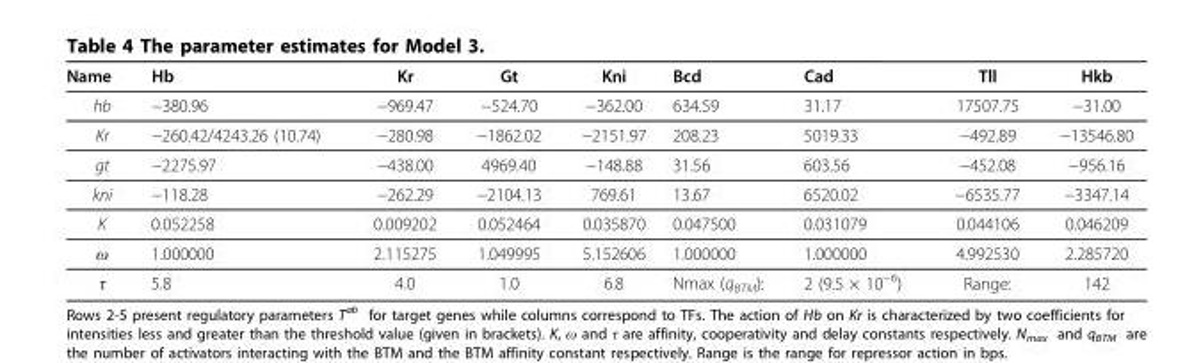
<table><thead><tr><td>Name</td><td>Hb</td><td>Kr</td><td>Gt</td><td>Kni</td><td>Bcd</td><td>Cad</td><td>Tll</td><td>Hkb</td></tr></thead><tbody><tr><td>hb</td><td>−380.96</td><td>−969.47</td><td>−524.70</td><td>−362.00</td><td>634.59</td><td>31.17</td><td>17507.75</td><td>−31.00</td></tr><tr><td>Kr</td><td>−260.42/4243.26 (10.74)</td><td>−280.98</td><td>−1862.02</td><td>−2151.97</td><td>208.23</td><td>5019.33</td><td>−492.89</td><td>−13546.80</td></tr><tr><td>gt</td><td>−2275.97</td><td>−438.00</td><td>4969.40</td><td>−148.88</td><td>31.56</td><td>603.56</td><td>−452.08</td><td>−956.16</td></tr><tr><td>kni</td><td>−118.28</td><td>−262.29</td><td>−2104.13</td><td>769.61</td><td>13.67</td><td>6520.02</td><td>−6535.77</td><td>−3347.14</td></tr><tr><td>K</td><td>0.052258</td><td>0.009202</td><td>0.052464</td><td>0.035870</td><td>0.047500</td><td>0.031079</td><td>0.044106</td><td>0.046209</td></tr><tr><td>ω</td><td>1.000000</td><td>2.115275</td><td>1.049995</td><td>5.152606</td><td>1.000000</td><td>1.000000</td><td>4.992530</td><td>2.285720</td></tr><tr><td>τ</td><td>5.8</td><td>4.0</td><td>1.0</td><td>6.8</td><td>Nmax (q<sub>BTM</sub>):</td><td>2 (9.5 × 10<sup>−6</sup>)</td><td>Range:</td><td>142</td></tr></tbody></table>